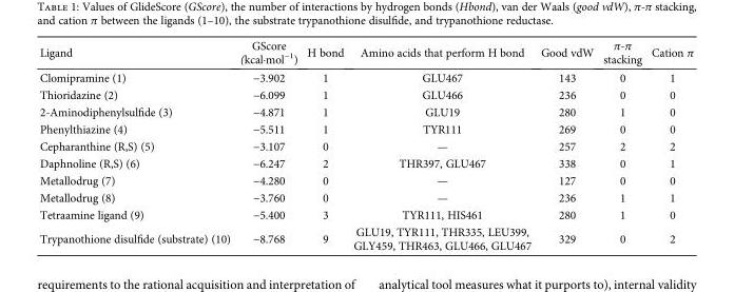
<table><thead><tr><td>Ligand</td><td>GScore (kcal·mol<sup>−1</sup>)</td><td>H bond</td><td>Amino acids that perform H bond</td><td>Good vdW</td><td>π-π stacking</td><td>Cation π</td></tr></thead><tbody><tr><td>Clomipramine (1)</td><td>−3.902</td><td>1</td><td>GLU467</td><td>143</td><td>0</td><td>1</td></tr><tr><td>Thioridazine (2)</td><td>−6.099</td><td>1</td><td>GLU466</td><td>236</td><td>0</td><td>0</td></tr><tr><td>2-Aminodiphenylsulfide (3)</td><td>−4.871</td><td>1</td><td>GLU19</td><td>280</td><td>1</td><td>0</td></tr><tr><td>Phenylthiazine (4)</td><td>−5.511</td><td>1</td><td>TYR111</td><td>269</td><td>0</td><td>0</td></tr><tr><td>Cepharanthine (R,S) (5)</td><td>−3.107</td><td>0</td><td>—</td><td>257</td><td>2</td><td>2</td></tr><tr><td>Daphnoline (R,S) (6)</td><td>−6.247</td><td>2</td><td>THR397, GLU467</td><td>338</td><td>0</td><td>1</td></tr><tr><td>Metallodrug (7)</td><td>−4.280</td><td>0</td><td>—</td><td>127</td><td>0</td><td>0</td></tr><tr><td>Metallodrug (8)</td><td>−3.760</td><td>0</td><td>—</td><td>236</td><td>1</td><td>1</td></tr><tr><td>Tetraamine ligand (9)</td><td>−5.400</td><td>3</td><td>TYR111, HIS461</td><td>280</td><td>1</td><td>0</td></tr><tr><td>Trypanothione disulfide (substrate) (10)</td><td>−8.768</td><td>9</td><td>GLU19, TYR111, THR335, LEU399, GLY459, THR463, GLU466, GLU467</td><td>329</td><td>0</td><td>2</td></tr></tbody></table>